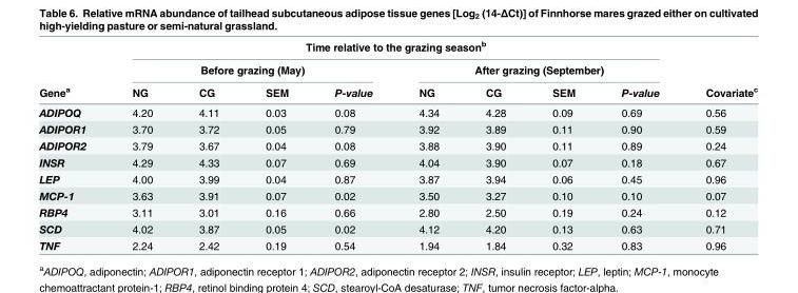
<table><thead><tr><td rowspan="3">Gene<sup>a</sup></td><td colspan="8">Time relative to the grazing season<sup>b</sup></td><td rowspan="3">Covariate<sup>c</sup></td></tr><tr><td colspan="4">Before grazing (May)</td><td colspan="4">After grazing (September)</td></tr><tr><td>NG</td><td>CG</td><td>SEM</td><td>P-value</td><td>NG</td><td>CG</td><td>SEM</td><td>P-value</td></tr></thead><tbody><tr><td>ADIPOQ</td><td>4.20</td><td>4.11</td><td>0.03</td><td>0.08</td><td>4.34</td><td>4.28</td><td>0.09</td><td>0.69</td><td>0.56</td></tr><tr><td>ADIPOR1</td><td>3.70</td><td>3.72</td><td>0.05</td><td>0.79</td><td>3.92</td><td>3.89</td><td>0.11</td><td>0.90</td><td>0.59</td></tr><tr><td>ADIPOR2</td><td>3.79</td><td>3.67</td><td>0.04</td><td>0.08</td><td>3.88</td><td>3.90</td><td>0.11</td><td>0.89</td><td>0.24</td></tr><tr><td>INSR</td><td>4.29</td><td>4.33</td><td>0.07</td><td>0.69</td><td>4.04</td><td>3.90</td><td>0.07</td><td>0.18</td><td>0.67</td></tr><tr><td>LEP</td><td>4.00</td><td>3.99</td><td>0.04</td><td>0.87</td><td>3.87</td><td>3.94</td><td>0.06</td><td>0.45</td><td>0.96</td></tr><tr><td>MCP-1</td><td>3.63</td><td>3.91</td><td>0.07</td><td>0.02</td><td>3.50</td><td>3.27</td><td>0.10</td><td>0.10</td><td>0.07</td></tr><tr><td>RBP4</td><td>3.11</td><td>3.01</td><td>0.16</td><td>0.66</td><td>2.80</td><td>2.50</td><td>0.19</td><td>0.24</td><td>0.12</td></tr><tr><td>SCD</td><td>4.02</td><td>3.87</td><td>0.05</td><td>0.02</td><td>4.12</td><td>4.20</td><td>0.13</td><td>0.63</td><td>0.71</td></tr><tr><td>TNF</td><td>2.24</td><td>2.42</td><td>0.19</td><td>0.54</td><td>1.94</td><td>1.84</td><td>0.32</td><td>0.83</td><td>0.96</td></tr></tbody></table>